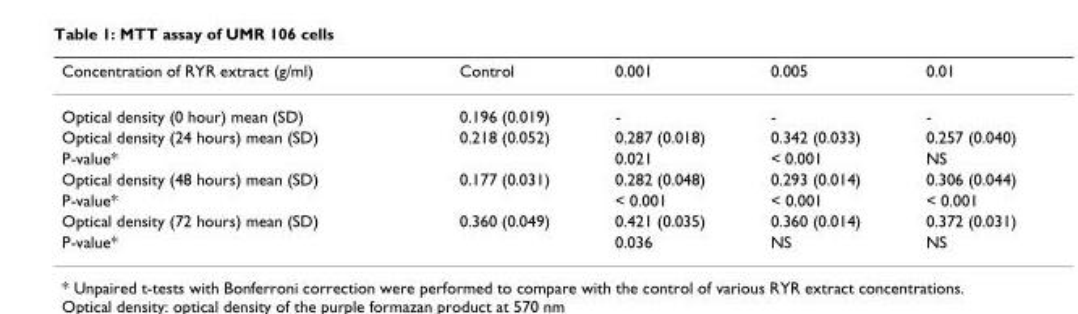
<table><thead><tr><td>Concentration of RYR extract (g/ml)</td><td>Control</td><td>0.001</td><td>0.005</td><td>0.01</td></tr></thead><tbody><tr><td>Optical density (0 hour) mean (SD)</td><td>0.196 (0.019)</td><td>-</td><td>-</td><td>-</td></tr><tr><td>Optical density (24 hours) mean (SD)</td><td>0.218 (0.052)</td><td>0.287 (0.018)</td><td>0.342 (0.033)</td><td>0.257 (0.040)</td></tr><tr><td>P-value*</td><td></td><td>0.021</td><td>&lt; 0.001</td><td>NS</td></tr><tr><td>Optical density (48 hours) mean (SD)</td><td>0.177 (0.031)</td><td>0.282 (0.048)</td><td>0.293 (0.014)</td><td>0.306 (0.044)</td></tr><tr><td>P-value*</td><td></td><td>&lt; 0.001</td><td>&lt; 0.001</td><td>&lt; 0.001</td></tr><tr><td>Optical density (72 hours) mean (SD)</td><td>0.360 (0.049)</td><td>0.421 (0.035)</td><td>0.360 (0.014)</td><td>0.372 (0.031)</td></tr><tr><td>P-value*</td><td></td><td>0.036</td><td>NS</td><td>NS</td></tr></tbody></table>